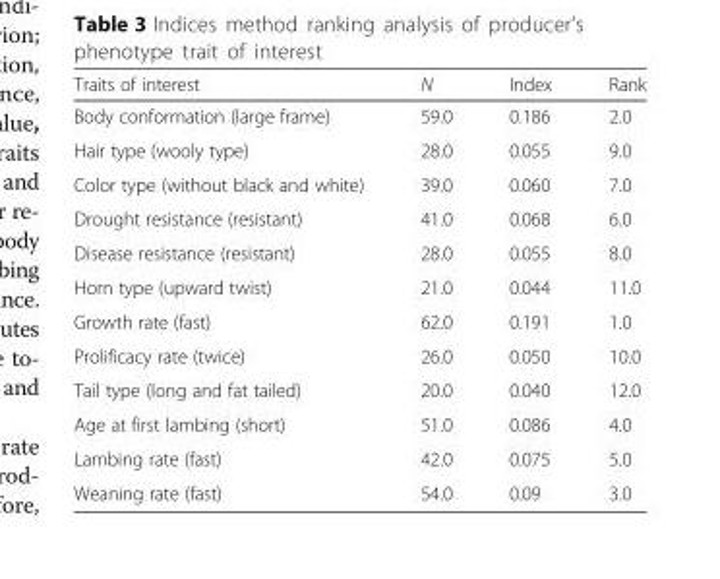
<table><thead><tr><td>Traits of interest</td><td>N</td><td>Index</td><td>Rank</td></tr></thead><tbody><tr><td>Body conformation (large frame)</td><td>59.0</td><td>0.186</td><td>2.0</td></tr><tr><td>Hair type (wooly type)</td><td>28.0</td><td>0.055</td><td>9.0</td></tr><tr><td>Color type (without black and white)</td><td>39.0</td><td>0.060</td><td>7.0</td></tr><tr><td>Drought resistance (resistant)</td><td>41.0</td><td>0.068</td><td>6.0</td></tr><tr><td>Disease resistance (resistant)</td><td>28.0</td><td>0.055</td><td>8.0</td></tr><tr><td>Horn type (upward twist)</td><td>21.0</td><td>0.044</td><td>11.0</td></tr><tr><td>Growth rate (fast)</td><td>62.0</td><td>0.191</td><td>1.0</td></tr><tr><td>Prolificacy rate (twice)</td><td>26.0</td><td>0.050</td><td>10.0</td></tr><tr><td>Tail type (long and fat tailed)</td><td>20.0</td><td>0.040</td><td>12.0</td></tr><tr><td>Age at first lambing (short)</td><td>51.0</td><td>0.086</td><td>4.0</td></tr><tr><td>Lambing rate (fast)</td><td>42.0</td><td>0.075</td><td>5.0</td></tr><tr><td>Weaning rate (fast)</td><td>54.0</td><td>0.09</td><td>3.0</td></tr></tbody></table>